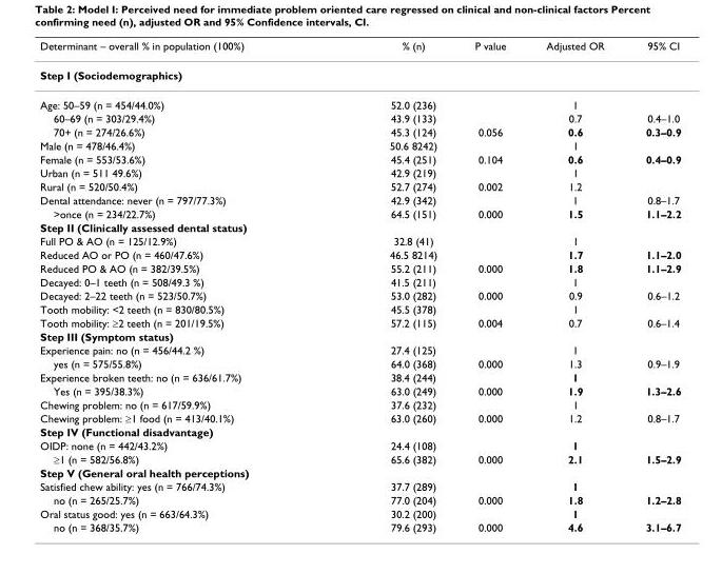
<table><thead><tr><td>Determinant – overall % in population (100%)</td><td>% (n)</td><td>P value</td><td>Adjusted OR</td><td>95% CI</td></tr></thead><tbody><tr><td colspan="5">Step I (Sociodemographics)</td></tr><tr><td>Age: 50–59 (n = 454/44.0%)</td><td>52.0 (236)</td><td></td><td>1</td><td></td></tr><tr><td>60–69 (n = 303/29.4%)</td><td>43.9 (133)</td><td></td><td>0.7</td><td>0.4–1.0</td></tr><tr><td>70+ (n = 274/26.6%)</td><td>45.3 (124)</td><td>0.056</td><td>0.6</td><td>0.3–0.9</td></tr><tr><td>Male (n = 478/46.4%)</td><td>50.6 8242)</td><td></td><td>1</td><td></td></tr><tr><td>Female (n = 553/53.6%)</td><td>45.4 (251)</td><td>0.104</td><td>0.6</td><td>0.4–0.9</td></tr><tr><td>Urban (n = 511 49.6%)</td><td>42.9 (219)</td><td></td><td>1</td><td></td></tr><tr><td>Rural (n = 520/50.4%)</td><td>52.7 (274)</td><td>0.002</td><td>1.2</td><td></td></tr><tr><td>Dental attendance: never (n = 797/77.3%)</td><td>42.9 (342)</td><td></td><td>1</td><td>0.8–1.7</td></tr><tr><td>&gt;once (n = 234/22.7%)</td><td>64.5 (151)</td><td>0.000</td><td>1.5</td><td>1.1–2.2</td></tr><tr><td colspan="5">Step II (Clinically assessed dental status)</td></tr><tr><td>Full PO &amp; AO (n = 125/12.9%)</td><td>32.8 (41)</td><td></td><td>1</td><td></td></tr><tr><td>Reduced AO or PO (n = 460/47.6%)</td><td>46.5 8214)</td><td></td><td>1.7</td><td>1.1–2.0</td></tr><tr><td>Reduced PO &amp; AO (n = 382/39.5%)</td><td>55.2 (211)</td><td>0.000</td><td>1.8</td><td>1.1–2.9</td></tr><tr><td>Decayed: 0–1 teeth (n = 508/49.3 %)</td><td>41.5 (211)</td><td></td><td>1</td><td></td></tr><tr><td>Decayed: 2–22 teeth (n = 523/50.7%)</td><td>53.0 (282)</td><td>0.000</td><td>0.9</td><td>0.6–1.2</td></tr><tr><td>Tooth mobility: &lt;2 teeth (n = 830/80.5%)</td><td>45.5 (378)</td><td></td><td>1</td><td></td></tr><tr><td>Tooth mobility: ≥2 teeth (n = 201/19.5%)</td><td>57.2 (115)</td><td>0.004</td><td>0.7</td><td>0.6–1.4</td></tr><tr><td colspan="5">Step III (Symptom status)</td></tr><tr><td>Experience pain: no (n = 456/44.2 %)</td><td>27.4 (125)</td><td></td><td>1</td><td></td></tr><tr><td>yes (n = 575/55.8%)</td><td>64.0 (368)</td><td>0.000</td><td>1.3</td><td>0.9–1.9</td></tr><tr><td>Experience broken teeth: no (n = 636/61.7%)</td><td>38.4 (244)</td><td></td><td>1</td><td></td></tr><tr><td>Yes (n = 395/38.3%)</td><td>63.0 (249)</td><td>0.000</td><td>1.9</td><td>1.3–2.6</td></tr><tr><td>Chewing problem: no (n = 617/59.9%)</td><td>37.6 (232)</td><td></td><td>1</td><td></td></tr><tr><td>Chewing problem: ≥1 food (n = 413/40.1%)</td><td>63.0 (260)</td><td>0.000</td><td>1.2</td><td>0.8–1.7</td></tr><tr><td colspan="5">Step IV (Functional disadvantage)</td></tr><tr><td>OIDP: none (n = 442/43.2%)</td><td>24.4 (108)</td><td></td><td>1</td><td></td></tr><tr><td>≥1 (n = 582/56.8%)</td><td>65.6 (382)</td><td>0.000</td><td>2.1</td><td>1.5–2.9</td></tr><tr><td colspan="5">Step V (General oral health perceptions)</td></tr><tr><td>Satisfied chew ability: yes (n = 766/74.3%)</td><td>37.7 (289)</td><td></td><td>1</td><td></td></tr><tr><td>no (n = 265/25.7%)</td><td>77.0 (204)</td><td>0.000</td><td>1.8</td><td>1.2–2.8</td></tr><tr><td>Oral status good: yes (n = 663/64.3%)</td><td>30.2 (200)</td><td></td><td>1</td><td></td></tr><tr><td>no (n = 368/35.7%)</td><td>79.6 (293)</td><td>0.000</td><td>4.6</td><td>3.1–6.7</td></tr></tbody></table>